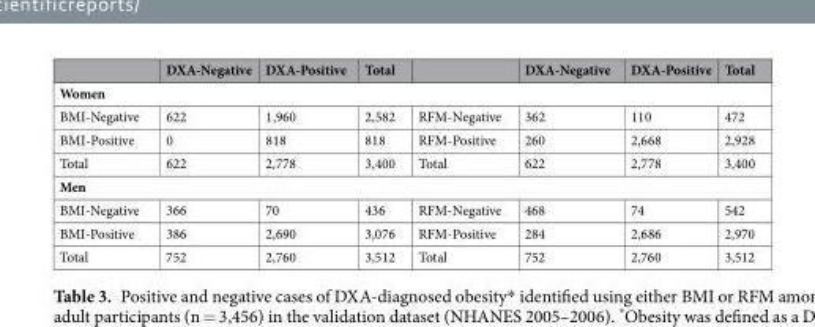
<table><thead><tr><td></td><td>DXA-Negative</td><td>DXA-Positive</td><td>Total</td><td></td><td>DXA-Negative</td><td>DXA-Positive</td><td>Total</td></tr></thead><tbody><tr><td colspan="8">Women</td></tr><tr><td>BMI-Negative</td><td>622</td><td>1,960</td><td>2,582</td><td>RFM-Negative</td><td>362</td><td>110</td><td>472</td></tr><tr><td>BMI-Positive</td><td>0</td><td>818</td><td>818</td><td>RFM-Positive</td><td>260</td><td>2,668</td><td>2,928</td></tr><tr><td>Total</td><td>622</td><td>2,778</td><td>3,400</td><td>Total</td><td>622</td><td>2,778</td><td>3,400</td></tr><tr><td colspan="8">Men</td></tr><tr><td>BMI-Negative</td><td>366</td><td>70</td><td>436</td><td>RFM-Negative</td><td>468</td><td>74</td><td>542</td></tr><tr><td>BMI-Positive</td><td>386</td><td>2,690</td><td>3,076</td><td>RFM-Positive</td><td>284</td><td>2,686</td><td>2,970</td></tr><tr><td>Total</td><td>752</td><td>2,760</td><td>3,512</td><td>Total</td><td>752</td><td>2,760</td><td>3,512</td></tr></tbody></table>